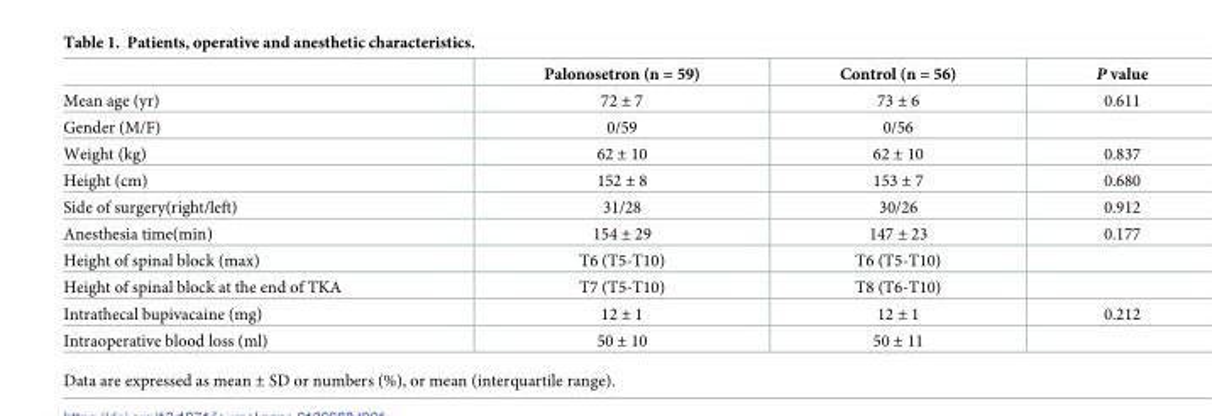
<table><thead><tr><td></td><td>Palonosetron (n = 59)</td><td>Control (n = 56)</td><td>P value</td></tr></thead><tbody><tr><td>Mean age (yr)</td><td>72 ± 7</td><td>73 ± 6</td><td>0.611</td></tr><tr><td>Gender (M/F)</td><td>0/59</td><td>0/56</td><td></td></tr><tr><td>Weight (kg)</td><td>62 ± 10</td><td>62 ± 10</td><td>0.837</td></tr><tr><td>Height (cm)</td><td>152 ± 8</td><td>153 ± 7</td><td>0.680</td></tr><tr><td>Side of surgery(right/left)</td><td>31/28</td><td>30/26</td><td>0.912</td></tr><tr><td>Anesthesia time(min)</td><td>154 ± 29</td><td>147 ± 23</td><td>0.177</td></tr><tr><td>Height of spinal block (max)</td><td>T6 (T5-T10)</td><td>T6 (T5-T10)</td><td></td></tr><tr><td>Height of spinal block at the end of TKA</td><td>T7 (T5-T10)</td><td>T8 (T6-T10)</td><td></td></tr><tr><td>Intrathecal bupivacaine (mg)</td><td>12 ± 1</td><td>12 ± 1</td><td>0.212</td></tr><tr><td>Intraoperative blood loss (ml)</td><td>50 ± 10</td><td>50 ± 11</td><td></td></tr></tbody></table>